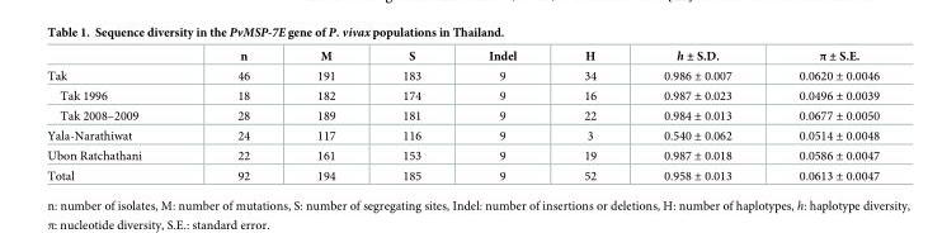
<table><thead><tr><td></td><td>n</td><td>M</td><td>S</td><td>Indel</td><td>H</td><td>h ± S.D.</td><td>π ± S.E.</td></tr></thead><tbody><tr><td>Tak</td><td>46</td><td>191</td><td>183</td><td>9</td><td>34</td><td>0.986 ± 0.007</td><td>0.0620 ± 0.0046</td></tr><tr><td>Tak 1996</td><td>18</td><td>182</td><td>174</td><td>9</td><td>16</td><td>0.987 ± 0.023</td><td>0.0496 ± 0.0039</td></tr><tr><td>Tak 2008–2009</td><td>28</td><td>189</td><td>181</td><td>9</td><td>22</td><td>0.984 ± 0.013</td><td>0.0677 ± 0.0050</td></tr><tr><td>Yala-Narathiwat</td><td>24</td><td>117</td><td>116</td><td>9</td><td>3</td><td>0.540 ± 0.062</td><td>0.0514 ± 0.0048</td></tr><tr><td>Ubon Ratchathani</td><td>22</td><td>161</td><td>153</td><td>9</td><td>19</td><td>0.987 ± 0.018</td><td>0.0586 ± 0.0047</td></tr><tr><td>Total</td><td>92</td><td>194</td><td>185</td><td>9</td><td>52</td><td>0.958 ± 0.013</td><td>0.0613 ± 0.0047</td></tr></tbody></table>